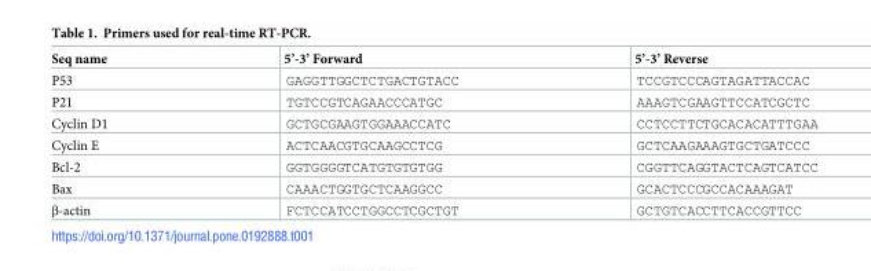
<table><thead><tr><td>Seq name</td><td>5’-3’ Forward</td><td>5’-3’ Reverse</td></tr></thead><tbody><tr><td>P53</td><td>GAGGTTGGCTCTGACTGTACC</td><td>TCCGTCCCAGTAGATTACCAC</td></tr><tr><td>P21</td><td>TGTCCGTCAGAACCCATGC</td><td>AAAGTCGAAGTTCCATCGCTC</td></tr><tr><td>Cyclin D1</td><td>GCTGCGAAGTGGAAACCATC</td><td>CCTCCTTCTGCACACATTTGAA</td></tr><tr><td>Cyclin E</td><td>ACTCAACGTGCAAGCCTCG</td><td>GCTCAAGAAAGTGCTGATCCC</td></tr><tr><td>Bcl-2</td><td>GGTGGGGTCATGTGTGTGG</td><td>CGGTTCAGGTACTCAGTCATCC</td></tr><tr><td>Bax</td><td>CAAACTGGTGCTCAAGGCC</td><td>GCACTCCCGCCACAAAGAT</td></tr><tr><td>β-actin</td><td>FCTCCATCCTGGCCTCGCTGT</td><td>GCTGTCACCTTCACCGTTCC</td></tr></tbody></table>